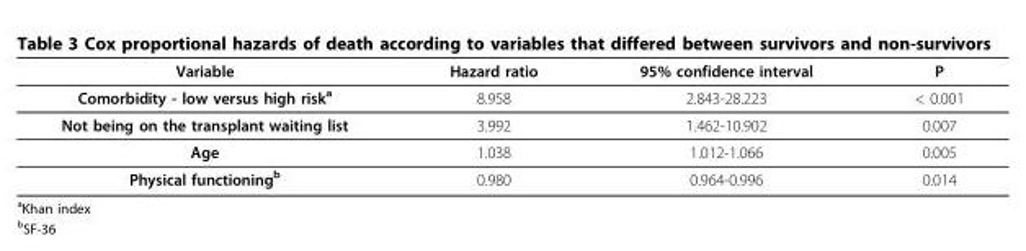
<table><thead><tr><td>Variable</td><td>Hazard ratio</td><td>95% confidence interval</td><td>P</td></tr></thead><tbody><tr><td>Comorbidity - low versus high risk<sup>a</sup></td><td>8.958</td><td>2.843-28.223</td><td>&lt; 0.001</td></tr><tr><td>Not being on the transplant waiting list</td><td>3.992</td><td>1.462-10.902</td><td>0.007</td></tr><tr><td>Age</td><td>1.038</td><td>1.012-1.066</td><td>0.005</td></tr><tr><td>Physical functioning<sup>b</sup></td><td>0.980</td><td>0.964-0.996</td><td>0.014</td></tr></tbody></table>